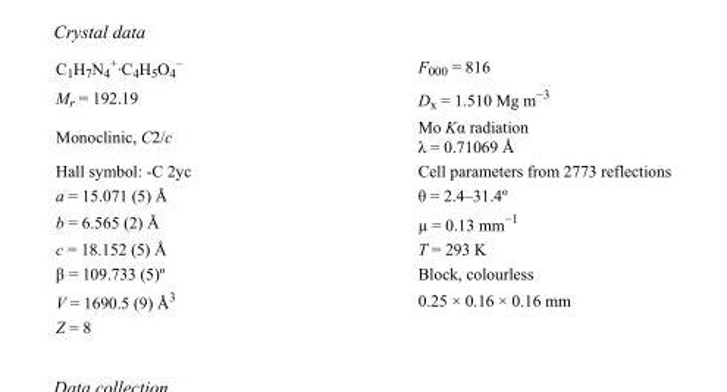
<table><tbody><tr><td>C1H7N4 +·C4H5O4 –</td><td>F000 = 816</td></tr><tr><td>M<sub>r</sub> = 192.19</td><td>D<sub>x</sub> = 1.510 Mg m<sup>−3</sup></td></tr><tr><td>Monoclinic, C2/c</td><td>Mo Kα radiation λ = 0.71069 Å</td></tr><tr><td>Hall symbol: -C 2yc</td><td>Cell parameters from 2773 reflections</td></tr><tr><td>a = 15.071 (5) Å</td><td>θ = 2.4–31.4º</td></tr><tr><td>b = 6.565 (2) Å</td><td>µ = 0.13 mm<sup>−1</sup></td></tr><tr><td>c = 18.152 (5) Å</td><td>T = 293 K</td></tr><tr><td>β = 109.733 (5)º</td><td>Block, colourless</td></tr><tr><td>V = 1690.5 (9) Å<sup>3</sup></td><td>0.25 × 0.16 × 0.16 mm</td></tr><tr><td>Z = 8</td><td></td></tr></tbody></table>